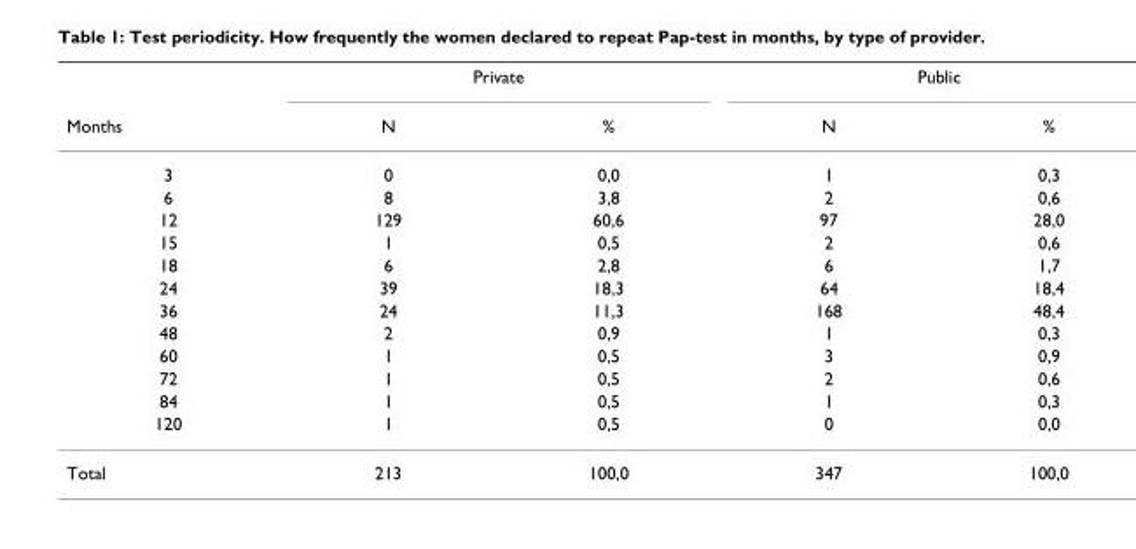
<table><thead><tr><td rowspan="2">Months</td><td colspan="2">Private</td><td colspan="2">Public</td></tr><tr><td>N</td><td>%</td><td>N</td><td>%</td></tr></thead><tbody><tr><td>3</td><td>0</td><td>0,0</td><td>1</td><td>0,3</td></tr><tr><td>6</td><td>8</td><td>3,8</td><td>2</td><td>0,6</td></tr><tr><td>12</td><td>129</td><td>60,6</td><td>97</td><td>28,0</td></tr><tr><td>15</td><td>1</td><td>0,5</td><td>2</td><td>0,6</td></tr><tr><td>18</td><td>6</td><td>2,8</td><td>6</td><td>1,7</td></tr><tr><td>24</td><td>39</td><td>18,3</td><td>64</td><td>18,4</td></tr><tr><td>36</td><td>24</td><td>11,3</td><td>168</td><td>48,4</td></tr><tr><td>48</td><td>2</td><td>0,9</td><td>1</td><td>0,3</td></tr><tr><td>60</td><td>1</td><td>0,5</td><td>3</td><td>0,9</td></tr><tr><td>72</td><td>1</td><td>0,5</td><td>2</td><td>0,6</td></tr><tr><td>84</td><td>1</td><td>0,5</td><td>1</td><td>0,3</td></tr><tr><td>120</td><td>1</td><td>0,5</td><td>0</td><td>0,0</td></tr><tr><td>Total</td><td>213</td><td>100,0</td><td>347</td><td>100,0</td></tr></tbody></table>